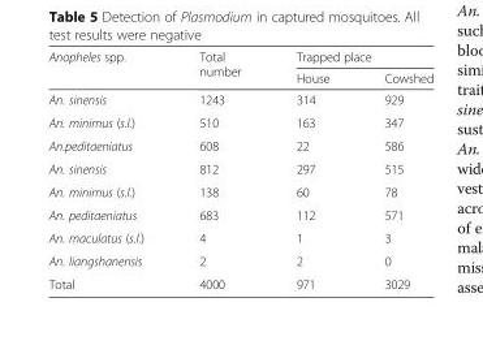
<table><thead><tr><td rowspan="2">Anopheles spp.</td><td rowspan="2">Total number</td><td colspan="2">Trapped place</td></tr><tr><td>House</td><td>Cowshed</td></tr></thead><tbody><tr><td>An. sinensis</td><td>1243</td><td>314</td><td>929</td></tr><tr><td>An. minimus (s.l.)</td><td>510</td><td>163</td><td>347</td></tr><tr><td>An.peditaeniatus</td><td>608</td><td>22</td><td>586</td></tr><tr><td>An. sinensis</td><td>812</td><td>297</td><td>515</td></tr><tr><td>An. minimus (s.l.)</td><td>138</td><td>60</td><td>78</td></tr><tr><td>An. peditaeniatus</td><td>683</td><td>112</td><td>571</td></tr><tr><td>An. maculatus (s.l.)</td><td>4</td><td>1</td><td>3</td></tr><tr><td>An. liangshanensis</td><td>2</td><td>2</td><td>0</td></tr><tr><td>Total</td><td>4000</td><td>971</td><td>3029</td></tr></tbody></table>